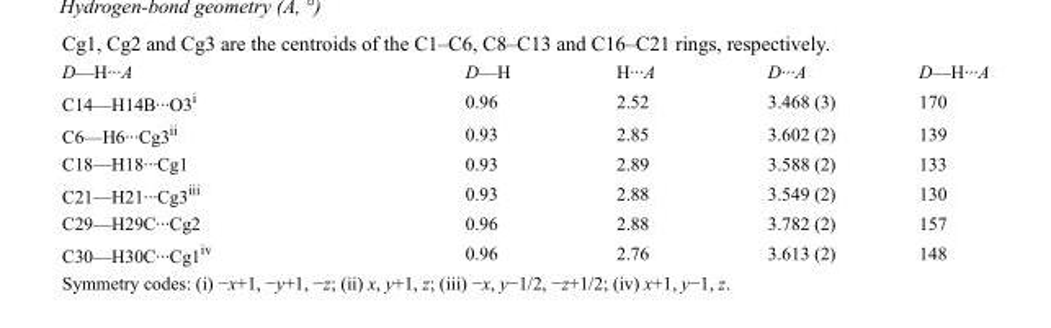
<table><tbody><tr><td>D—H···A</td><td>D—H</td><td>H···A</td><td>D···A</td><td>D—H···A</td></tr><tr><td>C14—H14B···O3<sup>i</sup></td><td>0.96</td><td>2.52</td><td>3.468 (3)</td><td>170</td></tr><tr><td>C6—H6···Cg3<sup>ii</sup></td><td>0.93</td><td>2.85</td><td>3.602 (2)</td><td>139</td></tr><tr><td>C18—H18···Cg1</td><td>0.93</td><td>2.89</td><td>3.588 (2)</td><td>133</td></tr><tr><td>C21—H21···Cg3<sup>iii</sup></td><td>0.93</td><td>2.88</td><td>3.549 (2)</td><td>130</td></tr><tr><td>C29—H29C···Cg2</td><td>0.96</td><td>2.88</td><td>3.782 (2)</td><td>157</td></tr><tr><td>C30—H30C···Cg1<sup>iv</sup></td><td>0.96</td><td>2.76</td><td>3.613 (2)</td><td>148</td></tr></tbody></table>